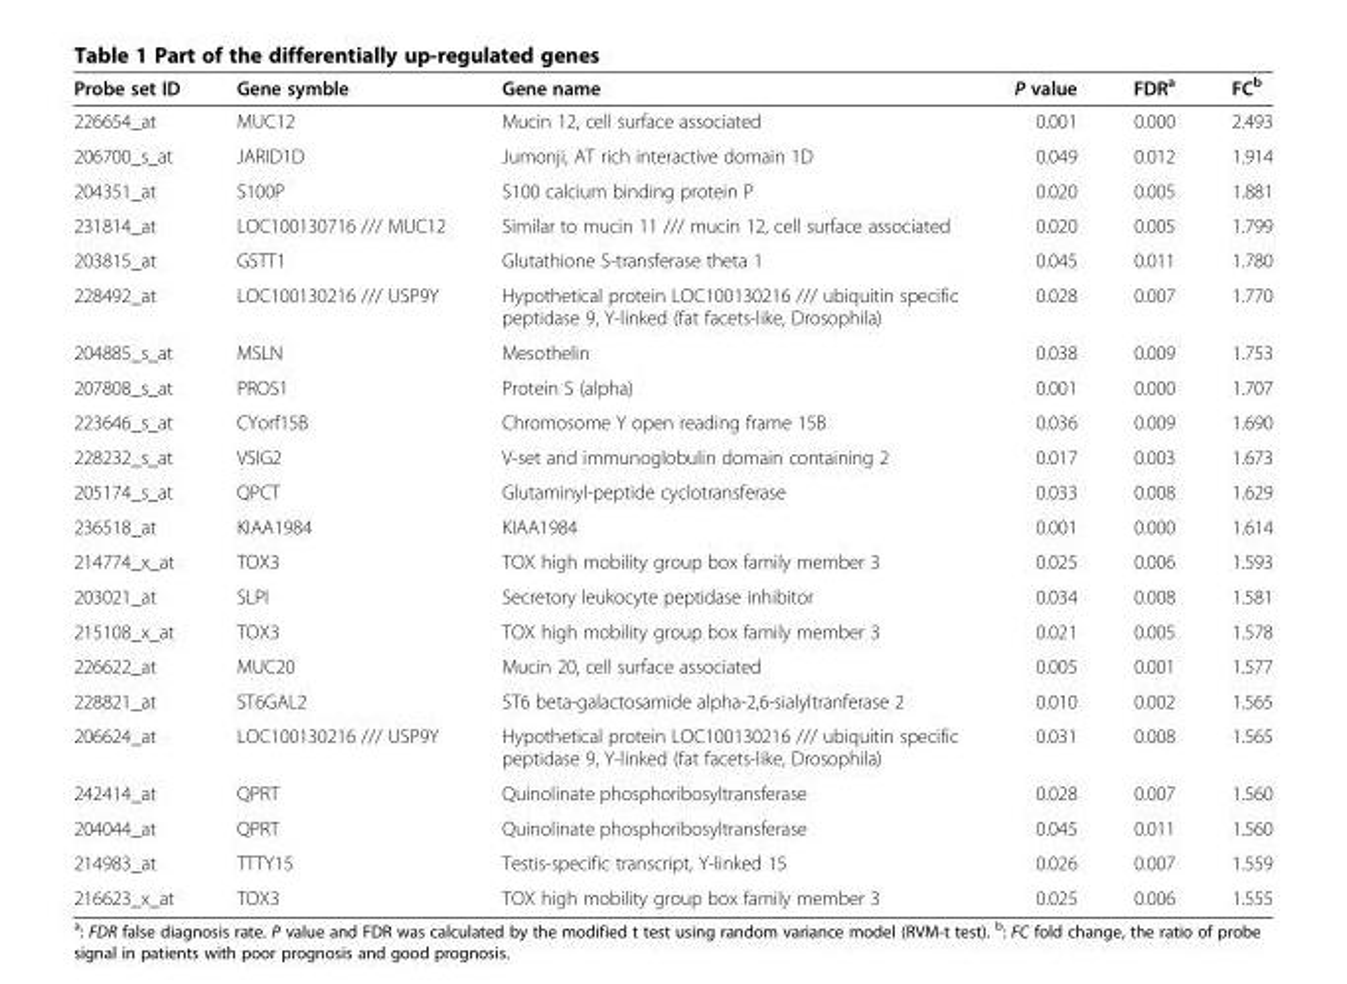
<table><thead><tr><td>Probe set ID</td><td>Gene symble</td><td>Gene name</td><td>P value</td><td>FDR<sup>a</sup></td><td>FC<sup>b</sup></td></tr></thead><tbody><tr><td>226654_at</td><td>MUC12</td><td>Mucin 12, cell surface associated</td><td>0.001</td><td>0.000</td><td>2.493</td></tr><tr><td>206700_s_at</td><td>JARID1D</td><td>Jumonji, AT rich interactive domain 1D</td><td>0.049</td><td>0.012</td><td>1.914</td></tr><tr><td>204351_at</td><td>S100P</td><td>S100 calcium binding protein P</td><td>0.020</td><td>0.005</td><td>1.881</td></tr><tr><td>231814_at</td><td>LOC100130716 /// MUC12</td><td>Similar to mucin 11 /// mucin 12, cell surface associated</td><td>0.020</td><td>0.005</td><td>1.799</td></tr><tr><td>203815_at</td><td>GSTT1</td><td>Glutathione S-transferase theta 1</td><td>0.045</td><td>0.011</td><td>1.780</td></tr><tr><td>228492_at</td><td>LOC100130216 /// USP9Y</td><td>Hypothetical protein LOC100130216 /// ubiquitin specific peptidase 9, Y-linked (fat facets-like, Drosophila)</td><td>0.028</td><td>0.007</td><td>1.770</td></tr><tr><td>204885_s_at</td><td>MSLN</td><td>Mesothelin</td><td>0.038</td><td>0.009</td><td>1.753</td></tr><tr><td>207808_s_at</td><td>PROS1</td><td>Protein S (alpha)</td><td>0.001</td><td>0.000</td><td>1.707</td></tr><tr><td>223646_s_at</td><td>CYorf15B</td><td>Chromosome Y open reading frame 15B</td><td>0.036</td><td>0.009</td><td>1.690</td></tr><tr><td>228232_s_at</td><td>VSIG2</td><td>V-set and immunoglobulin domain containing 2</td><td>0.017</td><td>0.003</td><td>1.673</td></tr><tr><td>205174_s_at</td><td>QPCT</td><td>Glutaminyl-peptide cyclotransferase</td><td>0.033</td><td>0.008</td><td>1.629</td></tr><tr><td>236518_at</td><td>KIAA1984</td><td>KIAA1984</td><td>0.001</td><td>0.000</td><td>1.614</td></tr><tr><td>214774_x_at</td><td>TOX3</td><td>TOX high mobility group box family member 3</td><td>0.025</td><td>0.006</td><td>1.593</td></tr><tr><td>203021_at</td><td>SLPI</td><td>Secretory leukocyte peptidase inhibitor</td><td>0.034</td><td>0.008</td><td>1.581</td></tr><tr><td>215108_x_at</td><td>TOX3</td><td>TOX high mobility group box family member 3</td><td>0.021</td><td>0.005</td><td>1.578</td></tr><tr><td>226622_at</td><td>MUC20</td><td>Mucin 20, cell surface associated</td><td>0.005</td><td>0.001</td><td>1.577</td></tr><tr><td>228821_at</td><td>ST6GAL2</td><td>ST6 beta-galactosamide alpha-2,6-sialyltranferase 2</td><td>0.010</td><td>0.002</td><td>1.565</td></tr><tr><td>206624_at</td><td>LOC100130216 /// USP9Y</td><td>Hypothetical protein LOC100130216 /// ubiquitin specific peptidase 9, Y-linked (fat facets-like, Drosophila)</td><td>0.031</td><td>0.008</td><td>1.565</td></tr><tr><td>242414_at</td><td>QPRT</td><td>Quinolinate phosphoribosyltransferase</td><td>0.028</td><td>0.007</td><td>1.560</td></tr><tr><td>204044_at</td><td>QPRT</td><td>Quinolinate phosphoribosyltransferase</td><td>0.045</td><td>0.011</td><td>1.560</td></tr><tr><td>214983_at</td><td>TTTY15</td><td>Testis-specific transcript, Y-linked 15</td><td>0.026</td><td>0.007</td><td>1.559</td></tr><tr><td>216623_x_at</td><td>TOX3</td><td>TOX high mobility group box family member 3</td><td>0.025</td><td>0.006</td><td>1.555</td></tr></tbody></table>